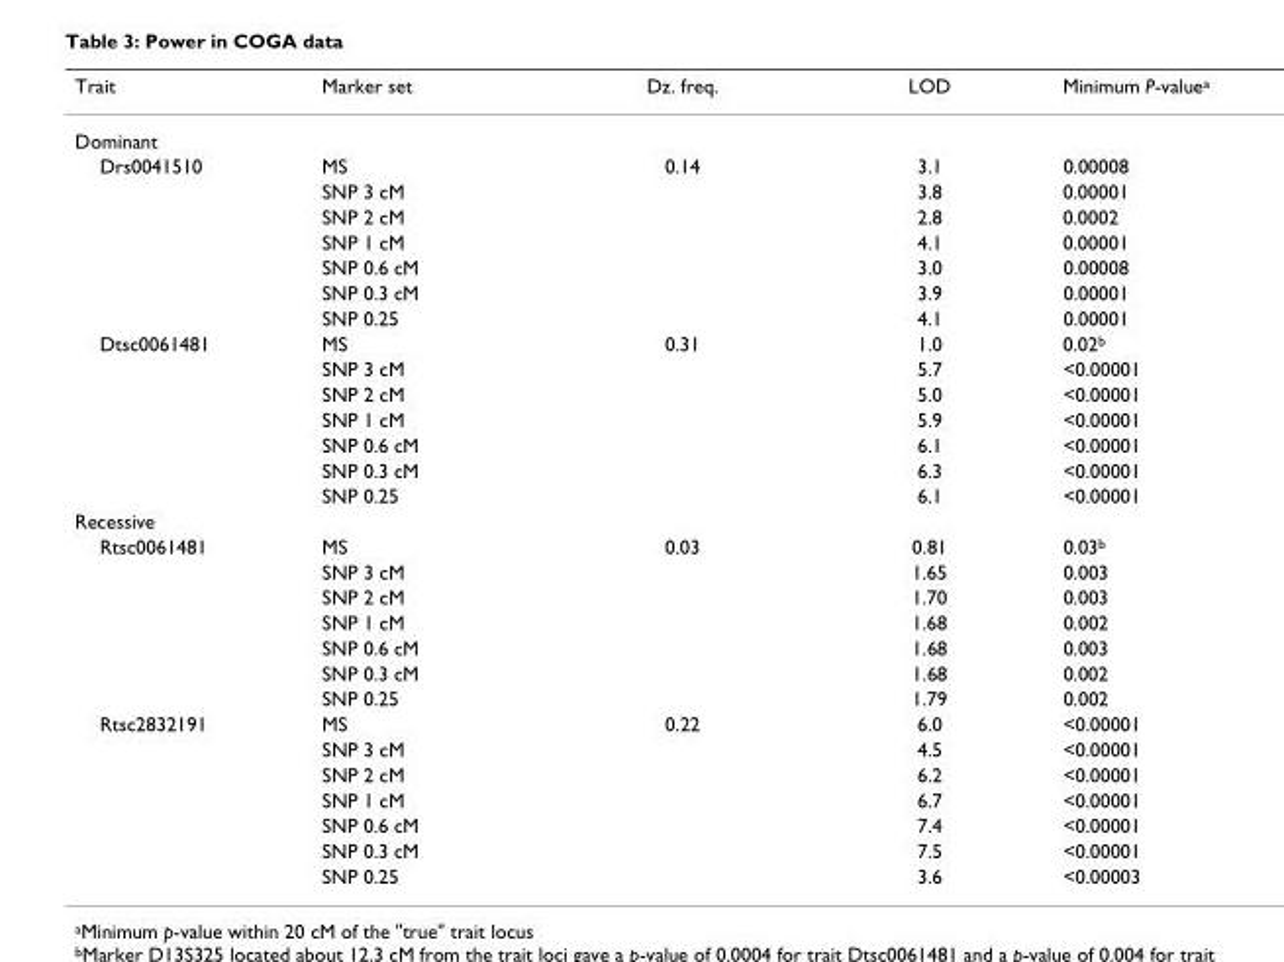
<table><thead><tr><td>Trait</td><td>Marker set</td><td>Dz. freq.</td><td>LOD</td><td>Minimum P-valuea</td></tr></thead><tbody><tr><td colspan="5">Dominant</td></tr><tr><td rowspan="7">Drs0041510</td><td>MS</td><td>0.14</td><td>3.1</td><td>0.00008</td></tr><tr><td>SNP 3 cM</td><td></td><td>3.8</td><td>0.00001</td></tr><tr><td>SNP 2 cM</td><td></td><td>2.8</td><td>0.0002</td></tr><tr><td>SNP 1 cM</td><td></td><td>4.1</td><td>0.00001</td></tr><tr><td>SNP 0.6 cM</td><td></td><td>3.0</td><td>0.00008</td></tr><tr><td>SNP 0.3 cM</td><td></td><td>3.9</td><td>0.00001</td></tr><tr><td>SNP 0.25</td><td></td><td>4.1</td><td>0.00001</td></tr><tr><td rowspan="7">Dtsc0061481</td><td>MS</td><td>0.31</td><td>1.0</td><td>0.02b</td></tr><tr><td>SNP 3 cM</td><td></td><td>5.7</td><td>&lt;0.00001</td></tr><tr><td>SNP 2 cM</td><td></td><td>5.0</td><td>&lt;0.00001</td></tr><tr><td>SNP 1 cM</td><td></td><td>5.9</td><td>&lt;0.00001</td></tr><tr><td>SNP 0.6 cM</td><td></td><td>6.1</td><td>&lt;0.00001</td></tr><tr><td>SNP 0.3 cM</td><td></td><td>6.3</td><td>&lt;0.00001</td></tr><tr><td>SNP 0.25</td><td></td><td>6.1</td><td>&lt;0.00001</td></tr><tr><td colspan="5">Recessive</td></tr><tr><td rowspan="7">Rtsc0061481</td><td>MS</td><td>0.03</td><td>0.81</td><td>0.03b</td></tr><tr><td>SNP 3 cM</td><td></td><td>1.65</td><td>0.003</td></tr><tr><td>SNP 2 cM</td><td></td><td>1.70</td><td>0.003</td></tr><tr><td>SNP 1 cM</td><td></td><td>1.68</td><td>0.002</td></tr><tr><td>SNP 0.6 cM</td><td></td><td>1.68</td><td>0.003</td></tr><tr><td>SNP 0.3 cM</td><td></td><td>1.68</td><td>0.002</td></tr><tr><td>SNP 0.25</td><td></td><td>1.79</td><td>0.002</td></tr><tr><td rowspan="7">Rtsc2832191</td><td>MS</td><td>0.22</td><td>6.0</td><td>&lt;0.00001</td></tr><tr><td>SNP 3 cM</td><td></td><td>4.5</td><td>&lt;0.00001</td></tr><tr><td>SNP 2 cM</td><td></td><td>6.2</td><td>&lt;0.00001</td></tr><tr><td>SNP 1 cM</td><td></td><td>6.7</td><td>&lt;0.00001</td></tr><tr><td>SNP 0.6 cM</td><td></td><td>7.4</td><td>&lt;0.00001</td></tr><tr><td>SNP 0.3 cM</td><td></td><td>7.5</td><td>&lt;0.00001</td></tr><tr><td>SNP 0.25</td><td></td><td>3.6</td><td>&lt;0.00003</td></tr></tbody></table>